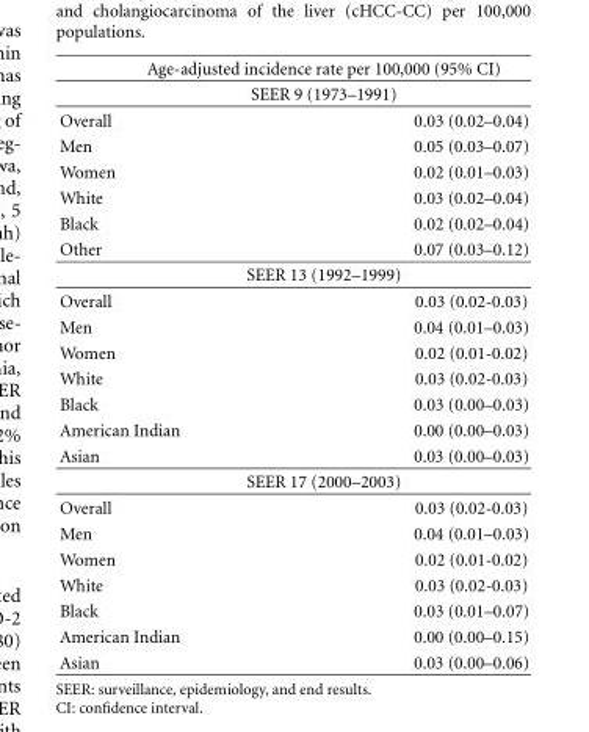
<table><thead><tr><td rowspan="2" colspan="2">Age-adjusted incidence rate per 100,000 (95% CI) SEER 9 (1973–1991)</td></tr><tr></tr><tr><td>Overall</td><td>0.03 (0.02–0.04)</td></tr></thead><tbody><tr><td>Men</td><td>0.05 (0.03–0.07)</td></tr><tr><td>Women</td><td>0.02 (0.01–0.03)</td></tr><tr><td>White</td><td>0.03 (0.02–0.04)</td></tr><tr><td>Black</td><td>0.02 (0.02–0.04)</td></tr><tr><td>Other</td><td>0.07 (0.03–0.12)</td></tr><tr><td colspan="2">SEER 13 (1992–1999)</td></tr><tr><td>Overall</td><td>0.03 (0.02-0.03)</td></tr><tr><td>Men</td><td>0.04 (0.01–0.03)</td></tr><tr><td>Women</td><td>0.02 (0.01-0.02)</td></tr><tr><td>White</td><td>0.03 (0.02-0.03)</td></tr><tr><td>Black</td><td>0.03 (0.00–0.03)</td></tr><tr><td>American Indian</td><td>0.00 (0.00–0.03)</td></tr><tr><td>Asian</td><td>0.03 (0.00–0.03)</td></tr><tr><td colspan="2">SEER 17 (2000–2003)</td></tr><tr><td>Overall</td><td>0.03 (0.02-0.03)</td></tr><tr><td>Men</td><td>0.04 (0.01–0.03)</td></tr><tr><td>Women</td><td>0.02 (0.01-0.02)</td></tr><tr><td>White</td><td>0.03 (0.02-0.03)</td></tr><tr><td>Black</td><td>0.03 (0.01–0.07)</td></tr><tr><td>American Indian</td><td>0.00 (0.00–0.15)</td></tr><tr><td>Asian</td><td>0.03 (0.00–0.06)</td></tr></tbody></table>